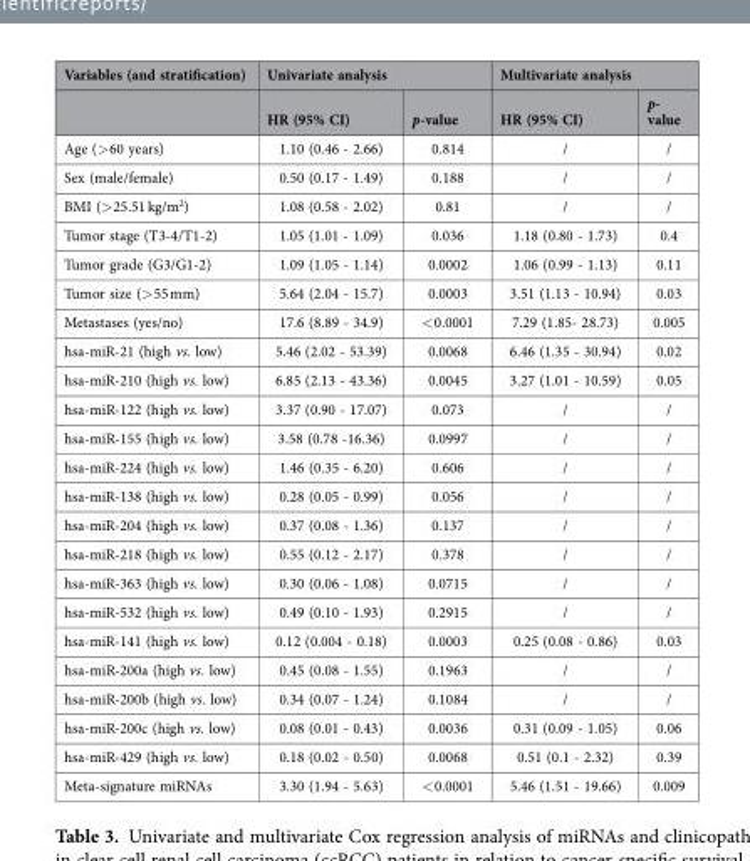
<table><thead><tr><td rowspan="2">Variables (and stratification)</td><td colspan="2">Univariate analysis</td><td colspan="2">Multivariate analysis</td></tr><tr><td>HR (95% CI)</td><td>p-value</td><td>HR (95% CI)</td><td>p- value</td></tr></thead><tbody><tr><td>Age (&gt; 60 years)</td><td>1.10 (0.46 - 2.66)</td><td>0.814</td><td>/</td><td>/</td></tr><tr><td>Sex (male/female)</td><td>0.50 (0.17 - 1.49)</td><td>0.188</td><td>/</td><td>/</td></tr><tr><td>BMI (&gt; 25.51 kg/m<sup>2</sup>)</td><td>1.08 (0.58 - 2.02)</td><td>0.81</td><td>/</td><td>/</td></tr><tr><td>Tumor stage (T3-4/T1-2)</td><td>1.05 (1.01 - 1.09)</td><td>0.036</td><td>1.18 (0.80 - 1.73)</td><td>0.4</td></tr><tr><td>Tumor grade (G3/G1-2)</td><td>1.09 (1.05 - 1.14)</td><td>0.0002</td><td>1.06 (0.99 - 1.13)</td><td>0.11</td></tr><tr><td>Tumor size (&gt; 55 mm)</td><td>5.64 (2.04 - 15.7)</td><td>0.0003</td><td>3.51 (1.13 - 10.94)</td><td>0.03</td></tr><tr><td>Metastases (yes/no)</td><td>17.6 (8.89 - 34.9)</td><td>&lt; 0.0001</td><td>7.29 (1.85- 28.73)</td><td>0.005</td></tr><tr><td>hsa-miR-21 (high vs. low)</td><td>5.46 (2.02 - 53.39)</td><td>0.0068</td><td>6.46 (1.35 - 30.94)</td><td>0.02</td></tr><tr><td>hsa-miR-210 (high vs. low)</td><td>6.85 (2.13 - 43.36)</td><td>0.0045</td><td>3.27 (1.01 - 10.59)</td><td>0.05</td></tr><tr><td>hsa-miR-122 (high vs. low)</td><td>3.37 (0.90 - 17.07)</td><td>0.073</td><td>/</td><td>/</td></tr><tr><td>hsa-miR-155 (high vs. low)</td><td>3.58 (0.78 -16.36)</td><td>0.0997</td><td>/</td><td>/</td></tr><tr><td>hsa-miR-224 (high vs. low)</td><td>1.46 (0.35 - 6.20)</td><td>0.606</td><td>/</td><td>/</td></tr><tr><td>hsa-miR-138 (high vs. low)</td><td>0.28 (0.05 - 0.99)</td><td>0.056</td><td>/</td><td>/</td></tr><tr><td>hsa-miR-204 (high vs. low)</td><td>0.37 (0.08 - 1.36)</td><td>0.137</td><td>/</td><td>/</td></tr><tr><td>hsa-miR-218 (high vs. low)</td><td>0.55 (0.12 - 2.17)</td><td>0.378</td><td>/</td><td>/</td></tr><tr><td>hsa-miR-363 (high vs. low)</td><td>0.30 (0.06 - 1.08)</td><td>0.0715</td><td>/</td><td>/</td></tr><tr><td>hsa-miR-532 (high vs. low)</td><td>0.49 (0.10 - 1.93)</td><td>0.2915</td><td>/</td><td>/</td></tr><tr><td>hsa-miR-141 (high vs. low)</td><td>0.12 (0.004 - 0.18)</td><td>0.0003</td><td>0.25 (0.08 - 0.86)</td><td>0.03</td></tr><tr><td>hsa-miR-200a (high vs. low)</td><td>0.45 (0.08 - 1.55)</td><td>0.1963</td><td>/</td><td>/</td></tr><tr><td>hsa-miR-200b (high vs. low)</td><td>0.34 (0.07 - 1.24)</td><td>0.1084</td><td>/</td><td>/</td></tr><tr><td>hsa-miR-200c (high vs. low)</td><td>0.08 (0.01 - 0.43)</td><td>0.0036</td><td>0.31 (0.09 - 1.05)</td><td>0.06</td></tr><tr><td>hsa-miR-429 (high vs. low)</td><td>0.18 (0.02 - 0.50)</td><td>0.0068</td><td>0.51 (0.1 - 2.32)</td><td>0.39</td></tr><tr><td>Meta-signature miRNAs</td><td>3.30 (1.94 - 5.63)</td><td>&lt; 0.0001</td><td>5.46 (1.51 - 19.66)</td><td>0.009</td></tr></tbody></table>